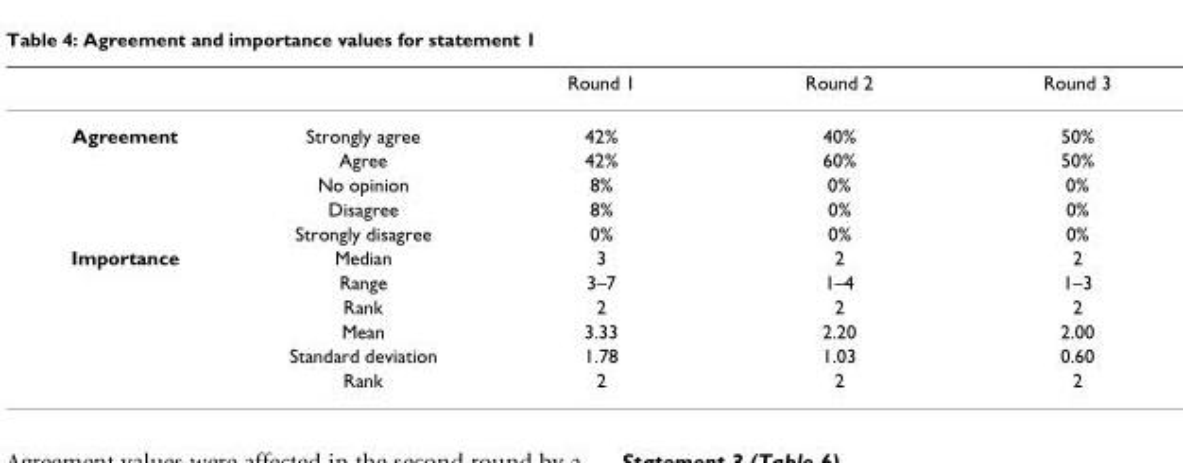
<table><thead><tr><td></td><td></td><td>Round 1</td><td>Round 2</td><td>Round 3</td></tr></thead><tbody><tr><td rowspan="5">Agreement</td><td>Strongly agree</td><td>42%</td><td>40%</td><td>50%</td></tr><tr><td>Agree</td><td>42%</td><td>60%</td><td>50%</td></tr><tr><td>No opinion</td><td>8%</td><td>0%</td><td>0%</td></tr><tr><td>Disagree</td><td>8%</td><td>0%</td><td>0%</td></tr><tr><td>Strongly disagree</td><td>0%</td><td>0%</td><td>0%</td></tr><tr><td rowspan="6">Importance</td><td>Median</td><td>3</td><td>2</td><td>2</td></tr><tr><td>Range</td><td>3–7</td><td>1–4</td><td>1–3</td></tr><tr><td>Rank</td><td>2</td><td>2</td><td>2</td></tr><tr><td>Mean</td><td>3.33</td><td>2.20</td><td>2.00</td></tr><tr><td>Standard deviation</td><td>1.78</td><td>1.03</td><td>0.60</td></tr><tr><td>Rank</td><td>2</td><td>2</td><td>2</td></tr></tbody></table>